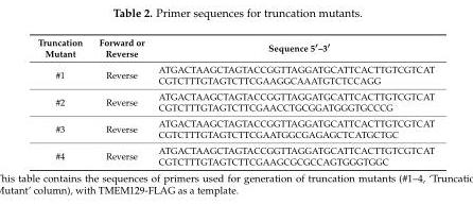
<table><thead><tr><td>Truncation Mutant</td><td>Forward or Reverse</td><td>Sequence 5′–3′</td></tr></thead><tbody><tr><td>#1</td><td>Reverse</td><td>ATGACTAAGCTAGTACCGGTTAGGATGCATTCACTTGTCGTCAT CGTCTTTGTAGTCTTCGAAGGCAAATGTCTCCAGG</td></tr><tr><td>#2</td><td>Reverse</td><td>ATGACTAAGCTAGTACCGGTTAGGATGCATTCACTTGTCGTCAT CGTCTTTGTAGTCTTCGAACCTGCGGATGGGTGCCCG</td></tr><tr><td>#3</td><td>Reverse</td><td>ATGACTAAGCTAGTACCGGTTAGGATGCATTCACTTGTCGTCAT CGTCTTTGTAGTCTTCGAATGGCGAGAGCTCATGCTGC</td></tr><tr><td>#4</td><td>Reverse</td><td>ATGACTAAGCTAGTACCGGTTAGGATGCATTCACTTGTCGTCAT CGTCTTTGTAGTCTTCGAAGCGCGCCAGTGGGTGGC</td></tr></tbody></table>